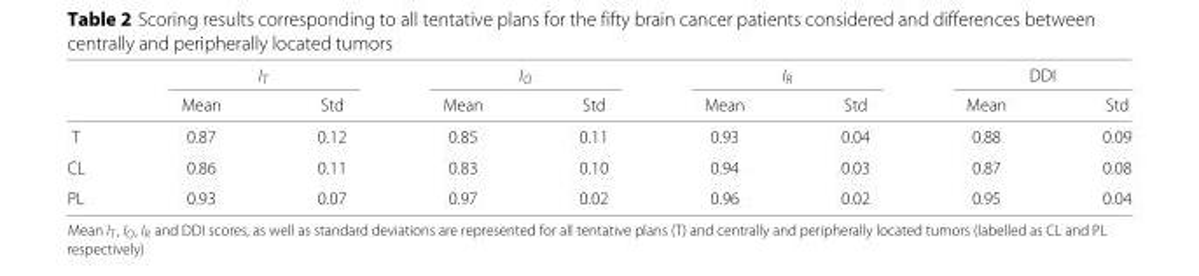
<table><thead><tr><td rowspan="2"></td><td colspan="2">I<sub>T</sub></td><td colspan="2">I<sub>O</sub></td><td colspan="2">I<sub>R</sub></td><td colspan="2">DDI</td></tr><tr><td>Mean</td><td>Std</td><td>Mean</td><td>Std</td><td>Mean</td><td>Std</td><td>Mean</td><td>Std</td></tr></thead><tbody><tr><td>T</td><td>0.87</td><td>0.12</td><td>0.85</td><td>0.11</td><td>0.93</td><td>0.04</td><td>0.88</td><td>0.09</td></tr><tr><td>CL</td><td>0.86</td><td>0.11</td><td>0.83</td><td>0.10</td><td>0.94</td><td>0.03</td><td>0.87</td><td>0.08</td></tr><tr><td>PL</td><td>0.93</td><td>0.07</td><td>0.97</td><td>0.02</td><td>0.96</td><td>0.02</td><td>0.95</td><td>0.04</td></tr></tbody></table>